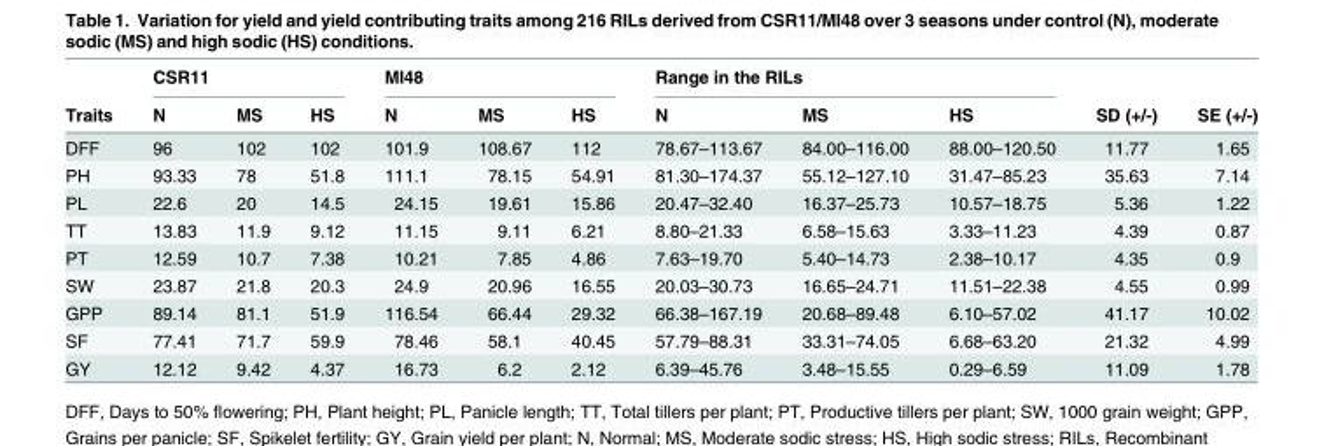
<table><thead><tr><td rowspan="2">Traits</td><td colspan="3">CSR11</td><td colspan="3">MI48</td><td colspan="3">Range in the RILs</td><td rowspan="2">SD (+/-)</td><td rowspan="2">SE (+/-)</td></tr><tr><td>N</td><td>MS</td><td>HS</td><td>N</td><td>MS</td><td>HS</td><td>N</td><td>MS</td><td>HS</td></tr></thead><tbody><tr><td>DFF</td><td>96</td><td>102</td><td>102</td><td>101.9</td><td>108.67</td><td>112</td><td>78.67–113.67</td><td>84.00–116.00</td><td>88.00–120.50</td><td>11.77</td><td>1.65</td></tr><tr><td>PH</td><td>93.33</td><td>78</td><td>51.8</td><td>111.1</td><td>78.15</td><td>54.91</td><td>81.30–174.37</td><td>55.12–127.10</td><td>31.47–85.23</td><td>35.63</td><td>7.14</td></tr><tr><td>PL</td><td>22.6</td><td>20</td><td>14.5</td><td>24.15</td><td>19.61</td><td>15.86</td><td>20.47–32.40</td><td>16.37–25.73</td><td>10.57–18.75</td><td>5.36</td><td>1.22</td></tr><tr><td>TT</td><td>13.83</td><td>11.9</td><td>9.12</td><td>11.15</td><td>9.11</td><td>6.21</td><td>8.80–21.33</td><td>6.58–15.63</td><td>3.33–11.23</td><td>4.39</td><td>0.87</td></tr><tr><td>PT</td><td>12.59</td><td>10.7</td><td>7.38</td><td>10.21</td><td>7.85</td><td>4.86</td><td>7.63–19.70</td><td>5.40–14.73</td><td>2.38–10.17</td><td>4.35</td><td>0.9</td></tr><tr><td>SW</td><td>23.87</td><td>21.8</td><td>20.3</td><td>24.9</td><td>20.96</td><td>16.55</td><td>20.03–30.73</td><td>16.65–24.71</td><td>11.51–22.38</td><td>4.55</td><td>0.99</td></tr><tr><td>GPP</td><td>89.14</td><td>81.1</td><td>51.9</td><td>116.54</td><td>66.44</td><td>29.32</td><td>66.38–167.19</td><td>20.68–89.48</td><td>6.10–57.02</td><td>41.17</td><td>10.02</td></tr><tr><td>SF</td><td>77.41</td><td>71.7</td><td>59.9</td><td>78.46</td><td>58.1</td><td>40.45</td><td>57.79–88.31</td><td>33.31–74.05</td><td>6.68–63.20</td><td>21.32</td><td>4.99</td></tr><tr><td>GY</td><td>12.12</td><td>9.42</td><td>4.37</td><td>16.73</td><td>6.2</td><td>2.12</td><td>6.39–45.76</td><td>3.48–15.55</td><td>0.29–6.59</td><td>11.09</td><td>1.78</td></tr></tbody></table>